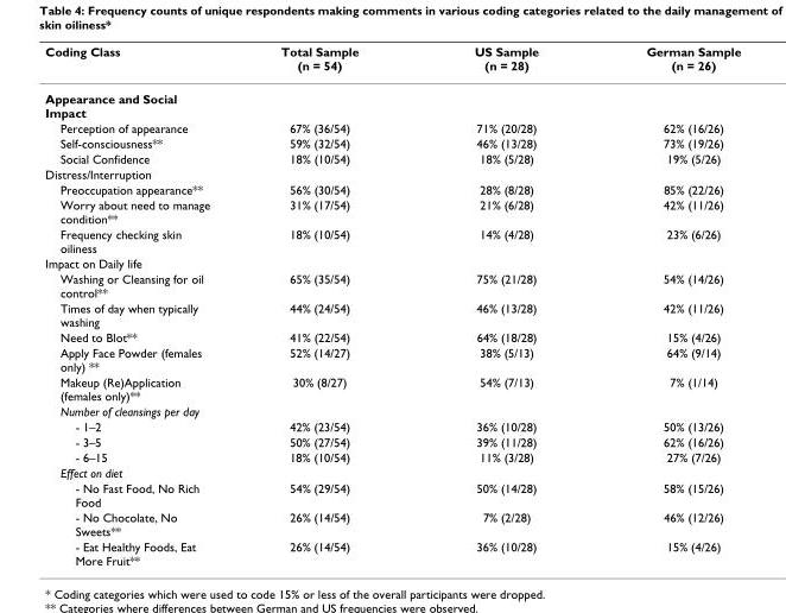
<table><thead><tr><td>Coding Class</td><td>Total Sample (n = 54)</td><td>US Sample (n = 28)</td><td>German Sample (n = 26)</td></tr></thead><tbody><tr><td colspan="4">Appearance and Social Impact</td></tr><tr><td>Perception of appearance</td><td>67% (36/54)</td><td>71% (20/28)</td><td>62% (16/26)</td></tr><tr><td>Self-consciousness**</td><td>59% (32/54)</td><td>46% (13/28)</td><td>73% (19/26)</td></tr><tr><td>Social Confidence</td><td>18% (10/54)</td><td>18% (5/28)</td><td>19% (5/26)</td></tr><tr><td colspan="4">Distress/Interruption</td></tr><tr><td>Preoccupation appearance**</td><td>56% (30/54)</td><td>28% (8/28)</td><td>85% (22/26)</td></tr><tr><td>Worry about need to manage condition**</td><td>31% (17/54)</td><td>21% (6/28)</td><td>42% (11/26)</td></tr><tr><td>Frequency checking skin oiliness</td><td>18% (10/54)</td><td>14% (4/28)</td><td>23% (6/26)</td></tr><tr><td colspan="4">Impact on Daily life</td></tr><tr><td>Washing or Cleansing for oil control**</td><td>65% (35/54)</td><td>75% (21/28)</td><td>54% (14/26)</td></tr><tr><td>Times of day when typically washing</td><td>44% (24/54)</td><td>46% (13/28)</td><td>42% (11/26)</td></tr><tr><td>Need to Blot**</td><td>41% (22/54)</td><td>64% (18/28)</td><td>15% (4/26)</td></tr><tr><td>Apply Face Powder (females only) **</td><td>52% (14/27)</td><td>38% (5/13)</td><td>64% (9/14)</td></tr><tr><td>Makeup (Re)Application (females only)**</td><td>30% (8/27)</td><td>54% (7/13)</td><td>7% (1/14)</td></tr><tr><td colspan="4">Number of cleansings per day</td></tr><tr><td>- 1–2</td><td>42% (23/54)</td><td>36% (10/28)</td><td>50% (13/26)</td></tr><tr><td>- 3–5</td><td>50% (27/54)</td><td>39% (11/28)</td><td>62% (16/26)</td></tr><tr><td>- 6–15</td><td>18% (10/54)</td><td>11% (3/28)</td><td>27% (7/26)</td></tr><tr><td colspan="4">Effect on diet</td></tr><tr><td>- No Fast Food, No Rich Food</td><td>54% (29/54)</td><td>50% (14/28)</td><td>58% (15/26)</td></tr><tr><td>- No Chocolate, No Sweets**</td><td>26% (14/54)</td><td>7% (2/28)</td><td>46% (12/26)</td></tr><tr><td>- Eat Healthy Foods, Eat More Fruit**</td><td>26% (14/54)</td><td>36% (10/28)</td><td>15% (4/26)</td></tr></tbody></table>